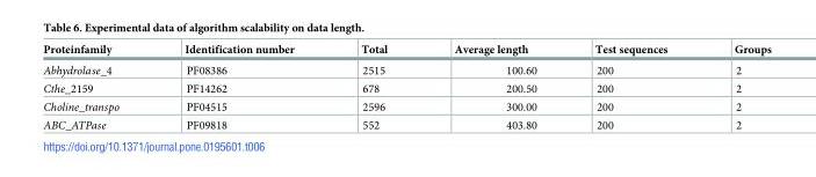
<table><thead><tr><td>Proteinfamily</td><td>Identification number</td><td>Total</td><td>Average length</td><td>Test sequences</td><td>Groups</td></tr></thead><tbody><tr><td>Abhydrolase_4</td><td>PF08386</td><td>2515</td><td>100.60</td><td>200</td><td>2</td></tr><tr><td>Cthe_2159</td><td>PF14262</td><td>678</td><td>200.50</td><td>200</td><td>2</td></tr><tr><td>Choline_transpo</td><td>PF04515</td><td>2596</td><td>300.00</td><td>200</td><td>2</td></tr><tr><td>ABC_ATPase</td><td>PF09818</td><td>552</td><td>403.80</td><td>200</td><td>2</td></tr></tbody></table>